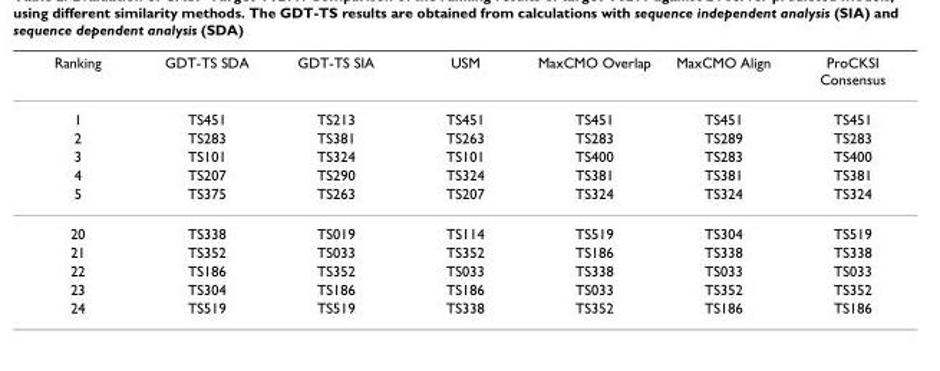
<table><thead><tr><td>Ranking</td><td>GDT-TS SDA</td><td>GDT-TS SIA</td><td>USM</td><td>MaxCMO Overlap</td><td>MaxCMO Align</td><td>ProCKSI Consensus</td></tr></thead><tbody><tr><td>1</td><td>TS451</td><td>TS213</td><td>TS451</td><td>TS451</td><td>TS451</td><td>TS451</td></tr><tr><td>2</td><td>TS283</td><td>TS381</td><td>TS263</td><td>TS283</td><td>TS289</td><td>TS283</td></tr><tr><td>3</td><td>TS101</td><td>TS324</td><td>TS101</td><td>TS400</td><td>TS283</td><td>TS400</td></tr><tr><td>4</td><td>TS207</td><td>TS290</td><td>TS324</td><td>TS381</td><td>TS381</td><td>TS381</td></tr><tr><td>5</td><td>TS375</td><td>TS263</td><td>TS207</td><td>TS324</td><td>TS324</td><td>TS324</td></tr><tr><td>20</td><td>TS338</td><td>TS019</td><td>TS114</td><td>TS519</td><td>TS304</td><td>TS519</td></tr><tr><td>21</td><td>TS352</td><td>TS033</td><td>TS352</td><td>TS186</td><td>TS338</td><td>TS338</td></tr><tr><td>22</td><td>TS186</td><td>TS352</td><td>TS033</td><td>TS338</td><td>TS033</td><td>TS033</td></tr><tr><td>23</td><td>TS304</td><td>TS186</td><td>TS186</td><td>TS033</td><td>TS352</td><td>TS352</td></tr><tr><td>24</td><td>TS519</td><td>TS519</td><td>TS338</td><td>TS352</td><td>TS186</td><td>TS186</td></tr></tbody></table>